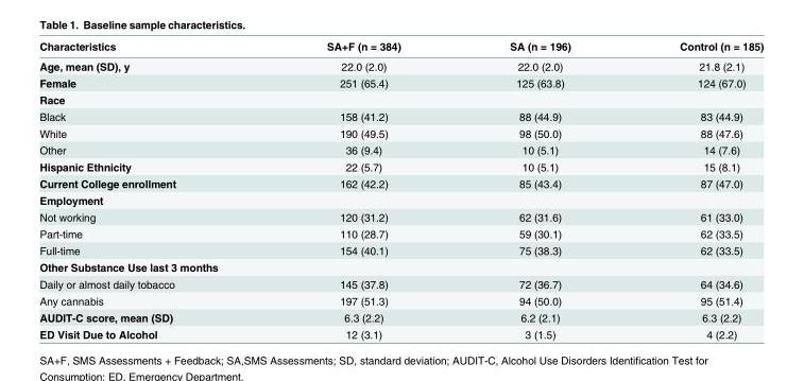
<table><thead><tr><td>Characteristics</td><td>SA+F (n = 384)</td><td>SA (n = 196)</td><td>Control (n = 185)</td></tr></thead><tbody><tr><td>Age, mean (SD), y</td><td>22.0 (2.0)</td><td>22.0 (2.0)</td><td>21.8 (2.1)</td></tr><tr><td>Female</td><td>251 (65.4)</td><td>125 (63.8)</td><td>124 (67.0)</td></tr><tr><td colspan="4">Race</td></tr><tr><td>Black</td><td>158 (41.2)</td><td>88 (44.9)</td><td>83 (44.9)</td></tr><tr><td>White</td><td>190 (49.5)</td><td>98 (50.0)</td><td>88 (47.6)</td></tr><tr><td>Other</td><td>36 (9.4)</td><td>10 (5.1)</td><td>14 (7.6)</td></tr><tr><td>Hispanic Ethnicity</td><td>22 (5.7)</td><td>10 (5.1)</td><td>15 (8.1)</td></tr><tr><td>Current College enrollment</td><td>162 (42.2)</td><td>85 (43.4)</td><td>87 (47.0)</td></tr><tr><td colspan="4">Employment</td></tr><tr><td>Not working</td><td>120 (31.2)</td><td>62 (31.6)</td><td>61 (33.0)</td></tr><tr><td>Part-time</td><td>110 (28.7)</td><td>59 (30.1)</td><td>62 (33.5)</td></tr><tr><td>Full-time</td><td>154 (40.1)</td><td>75 (38.3)</td><td>62 (33.5)</td></tr><tr><td colspan="4">Other Substance Use last 3 months</td></tr><tr><td>Daily or almost daily tobacco</td><td>145 (37.8)</td><td>72 (36.7)</td><td>64 (34.6)</td></tr><tr><td>Any cannabis</td><td>197 (51.3)</td><td>94 (50.0)</td><td>95 (51.4)</td></tr><tr><td>AUDIT-C score, mean (SD)</td><td>6.3 (2.2)</td><td>6.2 (2.1)</td><td>6.3 (2.2)</td></tr><tr><td>ED Visit Due to Alcohol</td><td>12 (3.1)</td><td>3 (1.5)</td><td>4 (2.2)</td></tr></tbody></table>